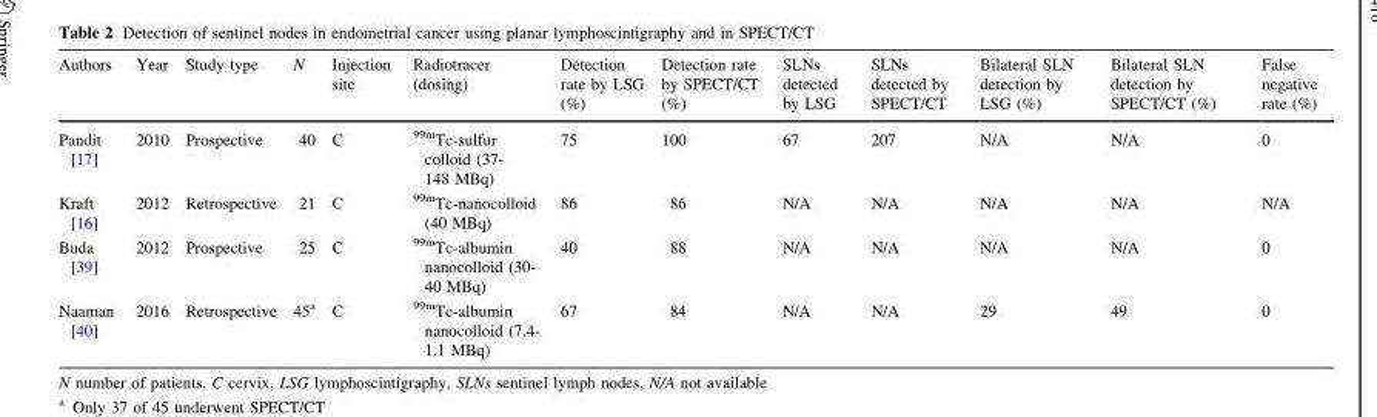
<table><thead><tr><td>Authors</td><td>Year</td><td>Study type</td><td>N</td><td>Injection site</td><td>Radiotracer (dosing)</td><td>Detection rate by LSG (%)</td><td>Detection rate by SPECT/CT (%)</td><td>SLNs detected by LSG</td><td>SLNs detected by SPECT/CT</td><td>Bilateral SLN detection by LSG (%)</td><td>Bilateral SLN detection by SPECT/CT (%)</td><td>False negative rate (%)</td></tr></thead><tbody><tr><td>Pandit [17]</td><td>2010</td><td>Prospective</td><td>40</td><td>C</td><td><sup>99m</sup>Tc-sulfur colloid (37- 148 MBq)</td><td>75</td><td>100</td><td>67</td><td>207</td><td>N/A</td><td>N/A</td><td>0</td></tr><tr><td>Kraft [16]</td><td>2012</td><td>Retrospective</td><td>21</td><td>C</td><td><sup>99m</sup>Tc-nanocolloid (40 MBq)</td><td>86</td><td>86</td><td>N/A</td><td>N/A</td><td>N/A</td><td>N/A</td><td>N/A</td></tr><tr><td>Buda [39]</td><td>2012</td><td>Prospective</td><td>25</td><td>C</td><td><sup>99m</sup>Tc-albumin nanocolloid (30- 40 MBq)</td><td>40</td><td>88</td><td>N/A</td><td>N/A</td><td>N/A</td><td>N/A</td><td>0</td></tr><tr><td>Naaman [40]</td><td>2016</td><td>Retrospective</td><td>45<sup>a</sup></td><td>C</td><td><sup>99m</sup>Tc-albumin nanocolloid (7.4- 1.1 MBq)</td><td>67</td><td>84</td><td>N/A</td><td>N/A</td><td>29</td><td>49</td><td>0</td></tr></tbody></table>